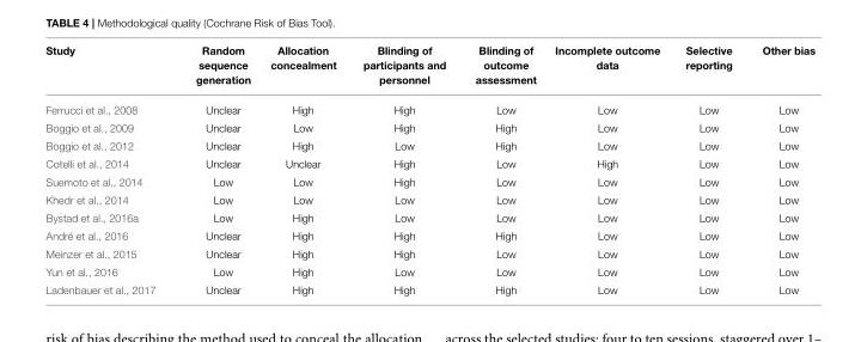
<table><thead><tr><td>Study</td><td>Random sequence generation</td><td>Allocation concealment</td><td>Blinding of participants and personnel</td><td>Blinding of outcome assessment</td><td>Incomplete outcome data</td><td>Selective reporting</td><td>Other bias</td></tr></thead><tbody><tr><td>Ferrucci et al., 2008</td><td>Unclear</td><td>High</td><td>High</td><td>Low</td><td>Low</td><td>Low</td><td>Low</td></tr><tr><td>Boggio et al., 2009</td><td>Unclear</td><td>Low</td><td>High</td><td>High</td><td>Low</td><td>Low</td><td>Low</td></tr><tr><td>Boggio et al., 2012</td><td>Unclear</td><td>High</td><td>Low</td><td>High</td><td>Low</td><td>Low</td><td>Low</td></tr><tr><td>Cotelli et al., 2014</td><td>Unclear</td><td>Unclear</td><td>High</td><td>Low</td><td>High</td><td>Low</td><td>Low</td></tr><tr><td>Suemoto et al., 2014</td><td>Low</td><td>Low</td><td>High</td><td>Low</td><td>Low</td><td>Low</td><td>Low</td></tr><tr><td>Khedr et al., 2014</td><td>Low</td><td>Low</td><td>Low</td><td>Low</td><td>Low</td><td>Low</td><td>Low</td></tr><tr><td>Bystad et al., 2016a</td><td>Low</td><td>High</td><td>Low</td><td>Low</td><td>Low</td><td>Low</td><td>Low</td></tr><tr><td>André et al., 2016</td><td>Unclear</td><td>High</td><td>High</td><td>High</td><td>Low</td><td>Low</td><td>Low</td></tr><tr><td>Meinzer et al., 2015</td><td>Unclear</td><td>High</td><td>High</td><td>Low</td><td>Low</td><td>Low</td><td>Low</td></tr><tr><td>Yun et al., 2016</td><td>Low</td><td>High</td><td>Low</td><td>Low</td><td>Low</td><td>Low</td><td>Low</td></tr><tr><td>Ladenbauer et al., 2017</td><td>Unclear</td><td>High</td><td>High</td><td>High</td><td>Low</td><td>Low</td><td>Low</td></tr></tbody></table>